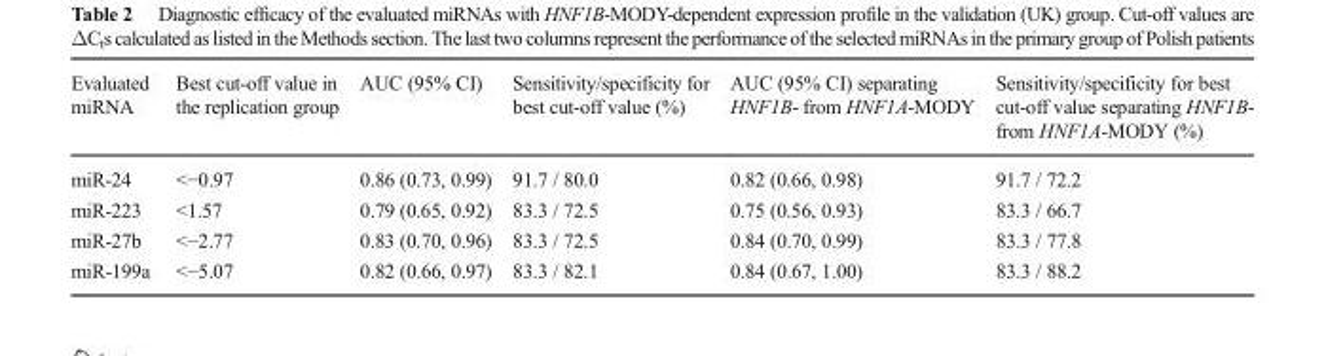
<table><thead><tr><td>Evaluated miRNA</td><td>Best cut-off value in the replication group</td><td>AUC (95% CI)</td><td>Sensitivity/specificity for best cut-off value (%)</td><td>AUC (95% CI) separating HNF1B- from HNF1A-MODY</td><td>Sensitivity/specificity for best cut-off value separating HNF1B- from HNF1A-MODY (%)</td></tr></thead><tbody><tr><td>miR-24</td><td>&lt;−0.97</td><td>0.86 (0.73, 0.99)</td><td>91.7 / 80.0</td><td>0.82 (0.66, 0.98)</td><td>91.7 / 72.2</td></tr><tr><td>miR-223</td><td>&lt;1.57</td><td>0.79 (0.65, 0.92)</td><td>83.3 / 72.5</td><td>0.75 (0.56, 0.93)</td><td>83.3 / 66.7</td></tr><tr><td>miR-27b</td><td>&lt;−2.77</td><td>0.83 (0.70, 0.96)</td><td>83.3 / 72.5</td><td>0.84 (0.70, 0.99)</td><td>83.3 / 77.8</td></tr><tr><td>miR-199a</td><td>&lt;−5.07</td><td>0.82 (0.66, 0.97)</td><td>83.3 / 82.1</td><td>0.84 (0.67, 1.00)</td><td>83.3 / 88.2</td></tr></tbody></table>